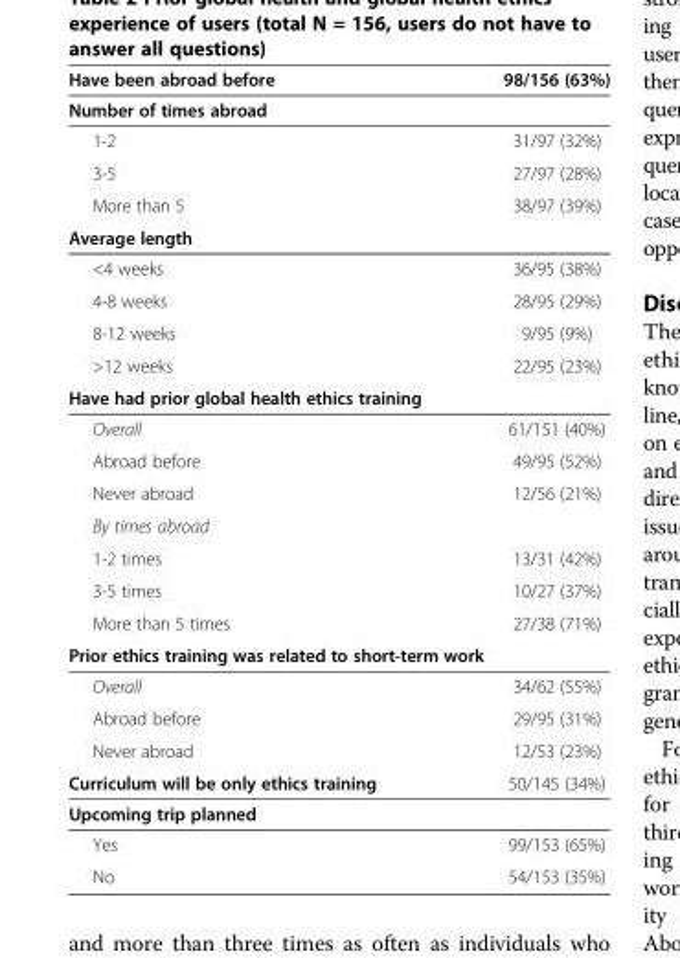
<table><thead><tr><td>Have been abroad before</td><td>98/156 (63%)</td></tr></thead><tbody><tr><td colspan="2">Number of times abroad</td></tr><tr><td>1-2</td><td>31/97 (32%)</td></tr><tr><td>3-5</td><td>27/97 (28%)</td></tr><tr><td>More than 5</td><td>38/97 (39%)</td></tr><tr><td colspan="2">Average length</td></tr><tr><td>&lt;4 weeks</td><td>36/95 (38%)</td></tr><tr><td>4-8 weeks</td><td>28/95 (29%)</td></tr><tr><td>8-12 weeks</td><td>9/95 (9%)</td></tr><tr><td>&gt;12 weeks</td><td>22/95 (23%)</td></tr><tr><td colspan="2">Have had prior global health ethics training</td></tr><tr><td>Overall</td><td>61/151 (40%)</td></tr><tr><td>Abroad before</td><td>49/95 (52%)</td></tr><tr><td>Never abroad</td><td>12/56 (21%)</td></tr><tr><td colspan="2">By times abroad</td></tr><tr><td>1-2 times</td><td>13/31 (42%)</td></tr><tr><td>3-5 times</td><td>10/27 (37%)</td></tr><tr><td>More than 5 times</td><td>27/38 (71%)</td></tr><tr><td colspan="2">Prior ethics training was related to short-term work</td></tr><tr><td>Overall</td><td>34/62 (55%)</td></tr><tr><td>Abroad before</td><td>29/95 (31%)</td></tr><tr><td>Never abroad</td><td>12/53 (23%)</td></tr><tr><td>Curriculum will be only ethics training</td><td>50/145 (34%)</td></tr><tr><td colspan="2">Upcoming trip planned</td></tr><tr><td>Yes</td><td>99/153 (65%)</td></tr><tr><td>No</td><td>54/153 (35%)</td></tr></tbody></table>